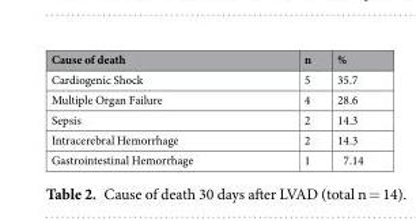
<table><thead><tr><td>Cause of death</td><td>n</td><td>%</td></tr></thead><tbody><tr><td>Cardiogenic Shock</td><td>5</td><td>35.7</td></tr><tr><td>Multiple Organ Failure</td><td>4</td><td>28.6</td></tr><tr><td>Sepsis</td><td>2</td><td>14.3</td></tr><tr><td>Intracerebral Hemorrhage</td><td>2</td><td>14.3</td></tr><tr><td>Gastrointestinal Hemorrhage</td><td>1</td><td>7.14</td></tr></tbody></table>